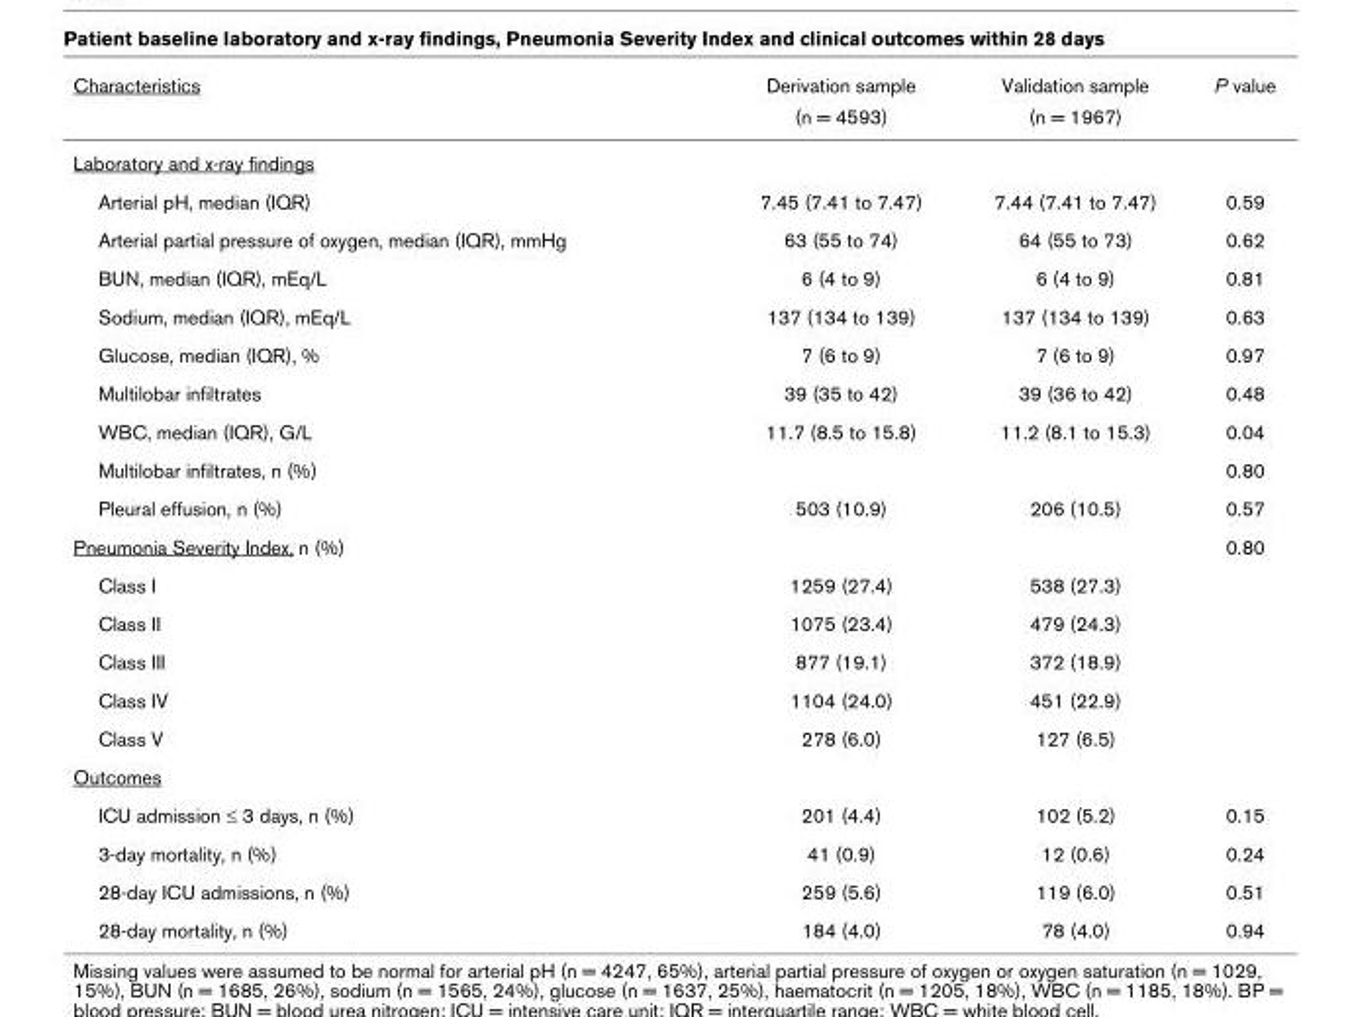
<table><thead><tr><td rowspan="2">Characteristics</td><td rowspan="2">Derivation sample (n = 4593)</td><td rowspan="2">Validation sample (n = 1967)</td><td rowspan="2">P value</td></tr><tr></tr></thead><tbody><tr><td colspan="4">Laboratory and x-ray findings</td></tr><tr><td>Arterial pH, median (IQR)</td><td>7.45 (7.41 to 7.47)</td><td>7.44 (7.41 to 7.47)</td><td>0.59</td></tr><tr><td>Arterial partial pressure of oxygen, median (IQR), mmHg</td><td>63 (55 to 74)</td><td>64 (55 to 73)</td><td>0.62</td></tr><tr><td>BUN, median (IQR), mEq/L</td><td>6 (4 to 9)</td><td>6 (4 to 9)</td><td>0.81</td></tr><tr><td>Sodium, median (IQR), mEq/L</td><td>137 (134 to 139)</td><td>137 (134 to 139)</td><td>0.63</td></tr><tr><td>Glucose, median (IQR), %</td><td>7 (6 to 9)</td><td>7 (6 to 9)</td><td>0.97</td></tr><tr><td>Multilobar infiltrates</td><td>39 (35 to 42)</td><td>39 (36 to 42)</td><td>0.48</td></tr><tr><td>WBC, median (IQR), G/L</td><td>11.7 (8.5 to 15.8)</td><td>11.2 (8.1 to 15.3)</td><td>0.04</td></tr><tr><td>Multilobar infiltrates, n (%)</td><td></td><td></td><td>0.80</td></tr><tr><td>Pleural effusion, n (%)</td><td>503 (10.9)</td><td>206 (10.5)</td><td>0.57</td></tr><tr><td>Pneumonia Severity Index, n (%)</td><td></td><td></td><td>0.80</td></tr><tr><td>Class I</td><td>1259 (27.4)</td><td>538 (27.3)</td><td></td></tr><tr><td>Class II</td><td>1075 (23.4)</td><td>479 (24.3)</td><td></td></tr><tr><td>Class III</td><td>877 (19.1)</td><td>372 (18.9)</td><td></td></tr><tr><td>Class IV</td><td>1104 (24.0)</td><td>451 (22.9)</td><td></td></tr><tr><td>Class V</td><td>278 (6.0)</td><td>127 (6.5)</td><td></td></tr><tr><td colspan="4">Outcomes</td></tr><tr><td>ICU admission ≤ 3 days, n (%)</td><td>201 (4.4)</td><td>102 (5.2)</td><td>0.15</td></tr><tr><td>3-day mortality, n (%)</td><td>41 (0.9)</td><td>12 (0.6)</td><td>0.24</td></tr><tr><td>28-day ICU admissions, n (%)</td><td>259 (5.6)</td><td>119 (6.0)</td><td>0.51</td></tr><tr><td>28-day mortality, n (%)</td><td>184 (4.0)</td><td>78 (4.0)</td><td>0.94</td></tr></tbody></table>